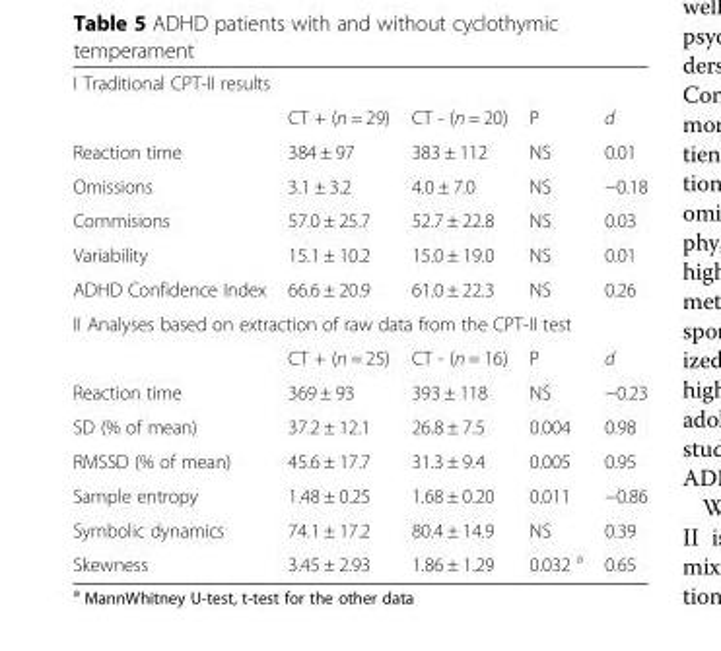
<table><tbody><tr><td colspan="5">I Traditional CPT-II results</td></tr><tr><td></td><td>CT + (n = 29)</td><td>CT - (n = 20)</td><td>P</td><td>d</td></tr><tr><td>Reaction time</td><td>384 ± 97</td><td>383 ± 112</td><td>NS</td><td>0.01</td></tr><tr><td>Omissions</td><td>3.1 ± 3.2</td><td>4.0 ± 7.0</td><td>NS</td><td>−0.18</td></tr><tr><td>Commisions</td><td>57.0 ± 25.7</td><td>52.7 ± 22.8</td><td>NS</td><td>0.03</td></tr><tr><td>Variability</td><td>15.1 ± 10.2</td><td>15.0 ± 19.0</td><td>NS</td><td>0.01</td></tr><tr><td>ADHD Confidence Index</td><td>66.6 ± 20.9</td><td>61.0 ± 22.3</td><td>NS</td><td>0.26</td></tr><tr><td colspan="5">II Analyses based on extraction of raw data from the CPT-II test</td></tr><tr><td></td><td>CT + (n = 25)</td><td>CT - (n = 16)</td><td>P</td><td>d</td></tr><tr><td>Reaction time</td><td>369 ± 93</td><td>393 ± 118</td><td>NS</td><td>−0.23</td></tr><tr><td>SD (% of mean)</td><td>37.2 ± 12.1</td><td>26.8 ± 7.5</td><td>0.004</td><td>0.98</td></tr><tr><td>RMSSD (% of mean)</td><td>45.6 ± 17.7</td><td>31.3 ± 9.4</td><td>0.005</td><td>0.95</td></tr><tr><td>Sample entropy</td><td>1.48 ± 0.25</td><td>1.68 ± 0.20</td><td>0.011</td><td>−0.86</td></tr><tr><td>Symbolic dynamics</td><td>74.1 ± 17.2</td><td>80.4 ± 14.9</td><td>NS</td><td>0.39</td></tr><tr><td>Skewness</td><td>3.45 ± 2.93</td><td>1.86 ± 1.29</td><td>0.032 <sup>a</sup></td><td>0.65</td></tr></tbody></table>